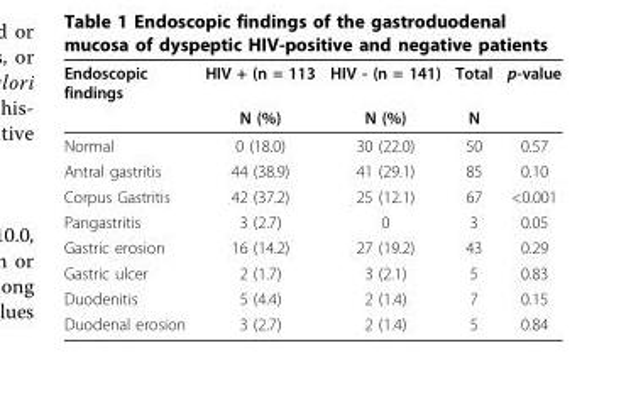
<table><thead><tr><td rowspan="2">Endoscopic findings</td><td rowspan="2">HIV + (n = 113 N (%)</td><td rowspan="2">HIV - (n = 141) N (%)</td><td rowspan="2">Total N</td><td rowspan="2">p-value</td></tr><tr></tr></thead><tbody><tr><td>Normal</td><td>0 (18.0)</td><td>30 (22.0)</td><td>50</td><td>0.57</td></tr><tr><td>Antral gastritis</td><td>44 (38.9)</td><td>41 (29.1)</td><td>85</td><td>0.10</td></tr><tr><td>Corpus Gastritis</td><td>42 (37.2)</td><td>25 (12.1)</td><td>67</td><td>&lt;0.001</td></tr><tr><td>Pangastritis</td><td>3 (2.7)</td><td>0</td><td>3</td><td>0.05</td></tr><tr><td>Gastric erosion</td><td>16 (14.2)</td><td>27 (19.2)</td><td>43</td><td>0.29</td></tr><tr><td>Gastric ulcer</td><td>2 (1.7)</td><td>3 (2.1)</td><td>5</td><td>0.83</td></tr><tr><td>Duodenitis</td><td>5 (4.4)</td><td>2 (1.4)</td><td>7</td><td>0.15</td></tr><tr><td>Duodenal erosion</td><td>3 (2.7)</td><td>2 (1.4)</td><td>5</td><td>0.84</td></tr></tbody></table>